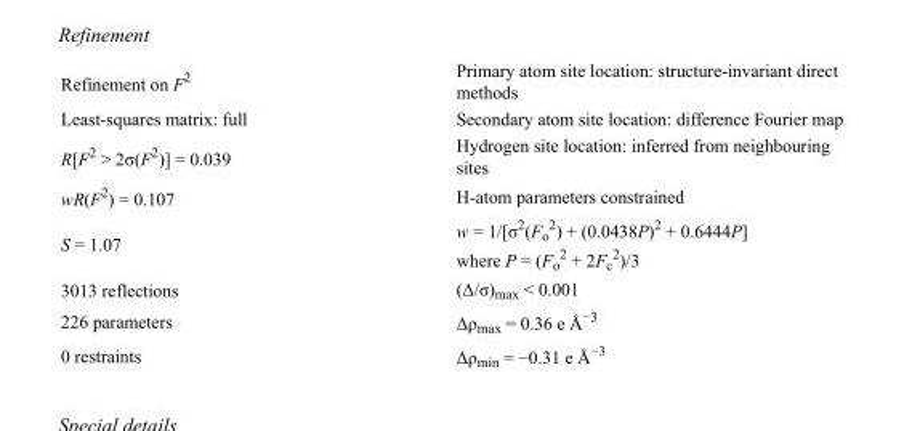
<table><tbody><tr><td>Refinement on F<sup>2</sup></td><td>Primary atom site location: structure-invariant direct methods</td></tr><tr><td>Least-squares matrix: full</td><td>Secondary atom site location: difference Fourier map</td></tr><tr><td>R[F<sup>2</sup> &gt; 2σ(F<sup>2</sup>)] = 0.039</td><td>Hydrogen site location: inferred from neighbouring sites</td></tr><tr><td>wR(F<sup>2</sup>) = 0.107</td><td>H-atom parameters constrained</td></tr><tr><td>S = 1.07</td><td>w = 1/[σ<sup>2</sup>(F<sub>o</sub> <sup>2</sup>) + (0.0438P)<sup>2</sup> + 0.6444P] where P = (F<sub>o</sub> <sup>2</sup> + 2F<sub>c</sub> <sup>2</sup>)/3</td></tr><tr><td>3013 reflections</td><td>(Δ/σ)<sub>max</sub> &lt; 0.001</td></tr><tr><td>226 parameters</td><td>Δρ<sub>max</sub> = 0.36 e Å<sup>−3</sup></td></tr><tr><td>0 restraints</td><td>Δρ<sub>min</sub> = −0.31 e Å<sup>−3</sup></td></tr></tbody></table>